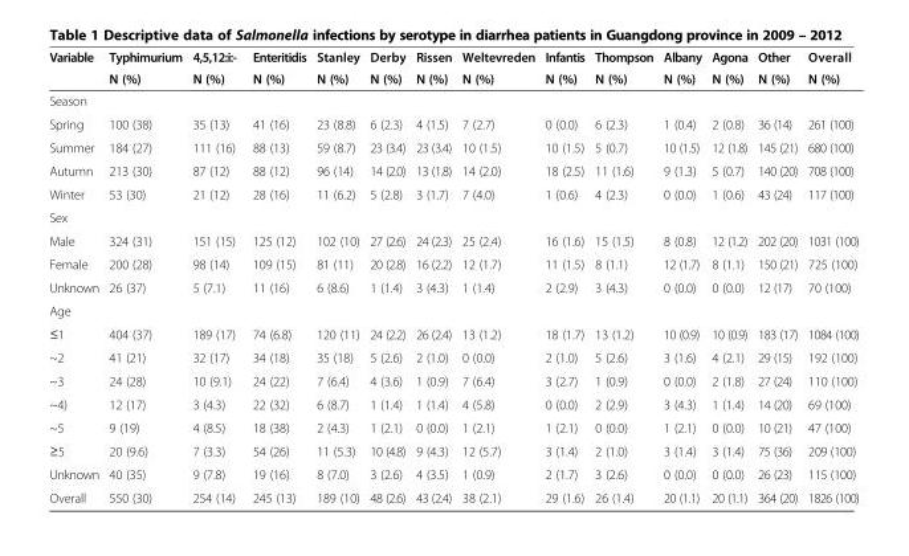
<table><thead><tr><td rowspan="2">Variable</td><td rowspan="2">Typhimurium N (%)</td><td rowspan="2">4,5,12:i:- N (%)</td><td rowspan="2">Enteritidis N (%)</td><td rowspan="2">Stanley N (%)</td><td rowspan="2">Derby N (%)</td><td rowspan="2">Rissen N (%)</td><td rowspan="2">Weltevreden N (%)</td><td rowspan="2">Infantis N (%)</td><td rowspan="2">Thompson N (%)</td><td rowspan="2">Albany N (%)</td><td rowspan="2">Agona N (%)</td><td rowspan="2">Other N (%)</td><td rowspan="2">Overall N (%)</td></tr><tr></tr></thead><tbody><tr><td colspan="14">Season</td></tr><tr><td>Spring</td><td>100 (38)</td><td>35 (13)</td><td>41 (16)</td><td>23 (8.8)</td><td>6 (2.3)</td><td>4 (1.5)</td><td>7 (2.7)</td><td>0 (0.0)</td><td>6 (2.3)</td><td>1 (0.4)</td><td>2 (0.8)</td><td>36 (14)</td><td>261 (100)</td></tr><tr><td>Summer</td><td>184 (27)</td><td>111 (16)</td><td>88 (13)</td><td>59 (8.7)</td><td>23 (3.4)</td><td>23 (3.4)</td><td>10 (1.5)</td><td>10 (1.5)</td><td>5 (0.7)</td><td>10 (1.5)</td><td>12 (1.8)</td><td>145 (21)</td><td>680 (100)</td></tr><tr><td>Autumn</td><td>213 (30)</td><td>87 (12)</td><td>88 (12)</td><td>96 (14)</td><td>14 (2.0)</td><td>13 (1.8)</td><td>14 (2.0)</td><td>18 (2.5)</td><td>11 (1.6)</td><td>9 (1.3)</td><td>5 (0.7)</td><td>140 (20)</td><td>708 (100)</td></tr><tr><td>Winter</td><td>53 (30)</td><td>21 (12)</td><td>28 (16)</td><td>11 (6.2)</td><td>5 (2.8)</td><td>3 (1.7)</td><td>7 (4.0)</td><td>1 (0.6)</td><td>4 (2.3)</td><td>0 (0.0)</td><td>1 (0.6)</td><td>43 (24)</td><td>117 (100)</td></tr><tr><td colspan="14">Sex</td></tr><tr><td>Male</td><td>324 (31)</td><td>151 (15)</td><td>125 (12)</td><td>102 (10)</td><td>27 (2.6)</td><td>24 (2.3)</td><td>25 (2.4)</td><td>16 (1.6)</td><td>15 (1.5)</td><td>8 (0.8)</td><td>12 (1.2)</td><td>202 (20)</td><td>1031 (100)</td></tr><tr><td>Female</td><td>200 (28)</td><td>98 (14)</td><td>109 (15)</td><td>81 (11)</td><td>20 (2.8)</td><td>16 (2.2)</td><td>12 (1.7)</td><td>11 (1.5)</td><td>8 (1.1)</td><td>12 (1.7)</td><td>8 (1.1)</td><td>150 (21)</td><td>725 (100)</td></tr><tr><td>Unknown</td><td>26 (37)</td><td>5 (7.1)</td><td>11 (16)</td><td>6 (8.6)</td><td>1 (1.4)</td><td>3 (4.3)</td><td>1 (1.4)</td><td>2 (2.9)</td><td>3 (4.3)</td><td>0 (0.0)</td><td>0 (0.0)</td><td>12 (17)</td><td>70 (100)</td></tr><tr><td colspan="14">Age</td></tr><tr><td>≤1</td><td>404 (37)</td><td>189 (17)</td><td>74 (6.8)</td><td>120 (11)</td><td>24 (2.2)</td><td>26 (2.4)</td><td>13 (1.2)</td><td>18 (1.7)</td><td>13 (1.2)</td><td>10 (0.9)</td><td>10 (0.9)</td><td>183 (17)</td><td>1084 (100)</td></tr><tr><td>~2</td><td>41 (21)</td><td>32 (17)</td><td>34 (18)</td><td>35 (18)</td><td>5 (2.6)</td><td>2 (1.0)</td><td>0 (0.0)</td><td>2 (1.0)</td><td>5 (2.6)</td><td>3 (1.6)</td><td>4 (2.1)</td><td>29 (15)</td><td>192 (100)</td></tr><tr><td>~3</td><td>24 (28)</td><td>10 (9.1)</td><td>24 (22)</td><td>7 (6.4)</td><td>4 (3.6)</td><td>1 (0.9)</td><td>7 (6.4)</td><td>3 (2.7)</td><td>1 (0.9)</td><td>0 (0.0)</td><td>2 (1.8)</td><td>27 (24)</td><td>110 (100)</td></tr><tr><td>~4)</td><td>12 (17)</td><td>3 (4.3)</td><td>22 (32)</td><td>6 (8.7)</td><td>1 (1.4)</td><td>1 (1.4)</td><td>4 (5.8)</td><td>0 (0.0)</td><td>2 (2.9)</td><td>3 (4.3)</td><td>1 (1.4)</td><td>14 (20)</td><td>69 (100)</td></tr><tr><td>~5</td><td>9 (19)</td><td>4 (8.5)</td><td>18 (38)</td><td>2 (4.3)</td><td>1 (2.1)</td><td>0 (0.0)</td><td>1 (2.1)</td><td>1 (2.1)</td><td>0 (0.0)</td><td>1 (2.1)</td><td>0 (0.0)</td><td>10 (21)</td><td>47 (100)</td></tr><tr><td>≥5</td><td>20 (9.6)</td><td>7 (3.3)</td><td>54 (26)</td><td>11 (5.3)</td><td>10 (4.8)</td><td>9 (4.3)</td><td>12 (5.7)</td><td>3 (1.4)</td><td>2 (1.0)</td><td>3 (1.4)</td><td>3 (1.4)</td><td>75 (36)</td><td>209 (100)</td></tr><tr><td>Unknown</td><td>40 (35)</td><td>9 (7.8)</td><td>19 (16)</td><td>8 (7.0)</td><td>3 (2.6)</td><td>4 (3.5)</td><td>1 (0.9)</td><td>2 (1.7)</td><td>3 (2.6)</td><td>0 (0.0)</td><td>0 (0.0)</td><td>26 (23)</td><td>115 (100)</td></tr><tr><td>Overall</td><td>550 (30)</td><td>254 (14)</td><td>245 (13)</td><td>189 (10)</td><td>48 (2.6)</td><td>43 (2.4)</td><td>38 (2.1)</td><td>29 (1.6)</td><td>26 (1.4)</td><td>20 (1.1)</td><td>20 (1.1)</td><td>364 (20)</td><td>1826 (100)</td></tr></tbody></table>